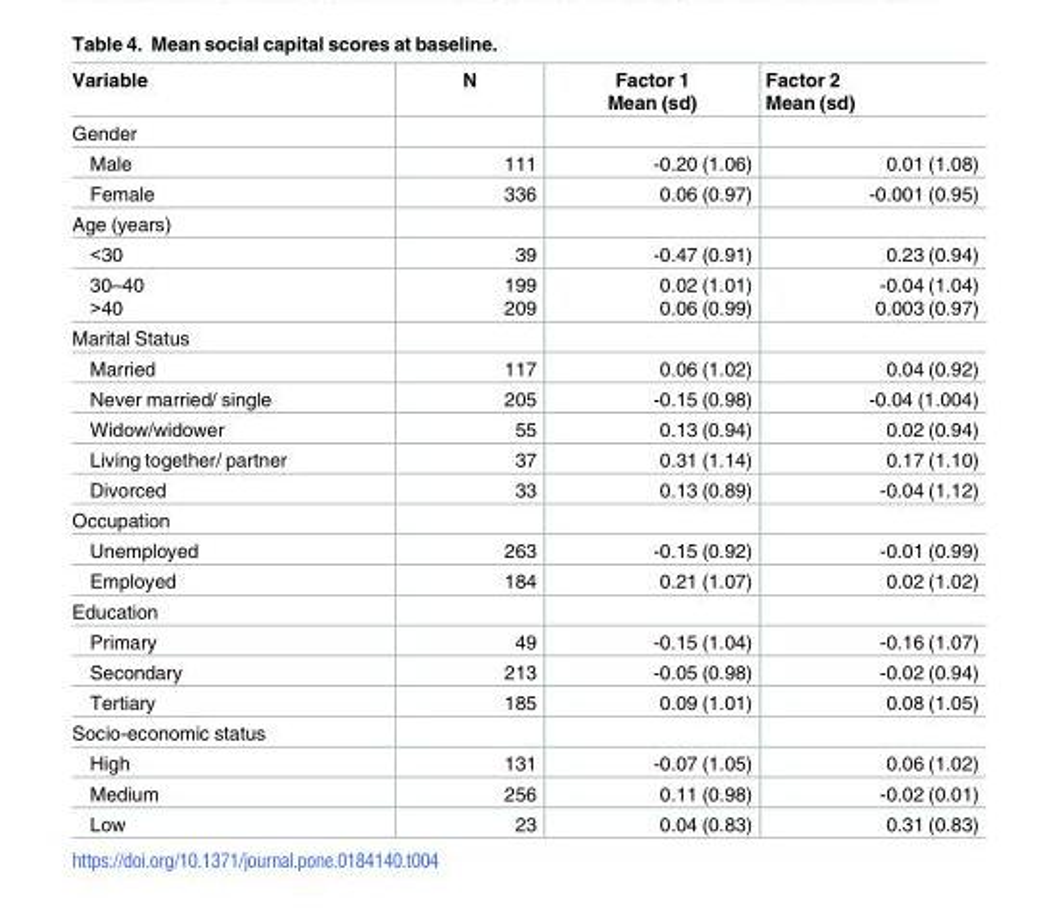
<table><thead><tr><td>Variable</td><td>N</td><td>Factor 1 Mean (sd)</td><td>Factor 2 Mean (sd)</td></tr></thead><tbody><tr><td colspan="4">Gender</td></tr><tr><td>Male</td><td>111</td><td>-0.20 (1.06)</td><td>0.01 (1.08)</td></tr><tr><td>Female</td><td>336</td><td>0.06 (0.97)</td><td>-0.001 (0.95)</td></tr><tr><td colspan="4">Age (years)</td></tr><tr><td>&lt;30</td><td>39</td><td>-0.47 (0.91)</td><td>0.23 (0.94)</td></tr><tr><td>30–40 &gt;40</td><td>199 209</td><td>0.02 (1.01) 0.06 (0.99)</td><td>-0.04 (1.04) 0.003 (0.97)</td></tr><tr><td colspan="4">Marital Status</td></tr><tr><td>Married</td><td>117</td><td>0.06 (1.02)</td><td>0.04 (0.92)</td></tr><tr><td>Never married/ single</td><td>205</td><td>-0.15 (0.98)</td><td>-0.04 (1.004)</td></tr><tr><td>Widow/widower</td><td>55</td><td>0.13 (0.94)</td><td>0.02 (0.94)</td></tr><tr><td>Living together/ partner</td><td>37</td><td>0.31 (1.14)</td><td>0.17 (1.10)</td></tr><tr><td>Divorced</td><td>33</td><td>0.13 (0.89)</td><td>-0.04 (1.12)</td></tr><tr><td colspan="4">Occupation</td></tr><tr><td>Unemployed</td><td>263</td><td>-0.15 (0.92)</td><td>-0.01 (0.99)</td></tr><tr><td>Employed</td><td>184</td><td>0.21 (1.07)</td><td>0.02 (1.02)</td></tr><tr><td colspan="4">Education</td></tr><tr><td>Primary</td><td>49</td><td>-0.15 (1.04)</td><td>-0.16 (1.07)</td></tr><tr><td>Secondary</td><td>213</td><td>-0.05 (0.98)</td><td>-0.02 (0.94)</td></tr><tr><td>Tertiary</td><td>185</td><td>0.09 (1.01)</td><td>0.08 (1.05)</td></tr><tr><td colspan="4">Socio-economic status</td></tr><tr><td>High</td><td>131</td><td>-0.07 (1.05)</td><td>0.06 (1.02)</td></tr><tr><td>Medium</td><td>256</td><td>0.11 (0.98)</td><td>-0.02 (0.01)</td></tr><tr><td>Low</td><td>23</td><td>0.04 (0.83)</td><td>0.31 (0.83)</td></tr></tbody></table>